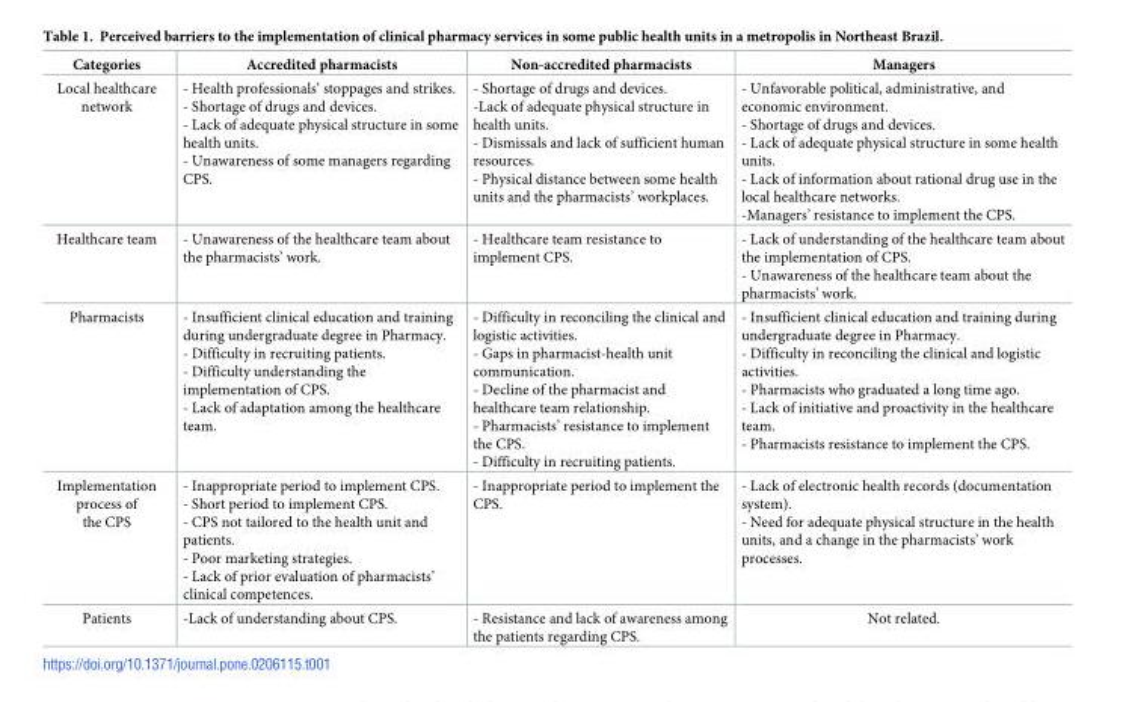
<table><thead><tr><td>Categories</td><td>Accredited pharmacists</td><td>Non-accredited pharmacists</td><td>Managers</td></tr></thead><tbody><tr><td>Local healthcare network</td><td>- Health professionals’ stoppages and strikes. - Shortage of drugs and devices. - Lack of adequate physical structure in some health units. - Unawareness of some managers regarding CPS.</td><td>- Shortage of drugs and devices. -Lack of adequate physical structure in health units. - Dismissals and lack of sufficient human resources. - Physical distance between some health units and the pharmacists’ workplaces.</td><td>- Unfavorable political, administrative, and economic environment. - Shortage of drugs and devices. - Lack of adequate physical structure in some health units. - Lack of information about rational drug use in the local healthcare networks. -Managers’ resistance to implement the CPS.</td></tr><tr><td>Healthcare team</td><td>- Unawareness of the healthcare team about the pharmacists’ work.</td><td>- Healthcare team resistance to implement CPS.</td><td>- Lack of understanding of the healthcare team about the implementation of CPS. - Unawareness of the healthcare team about the pharmacists’ work.</td></tr><tr><td>Pharmacists</td><td>- Insufficient clinical education and training during undergraduate degree in Pharmacy. - Difficulty in recruiting patients. - Difficulty understanding the implementation of CPS. - Lack of adaptation among the healthcare team.</td><td>- Difficulty in reconciling the clinical and logistic activities. - Gaps in pharmacist-health unit communication. - Decline of the pharmacist and healthcare team relationship. - Pharmacists’ resistance to implement the CPS. - Difficulty in recruiting patients.</td><td>- Insufficient clinical education and training during undergraduate degree in Pharmacy. - Difficulty in reconciling the clinical and logistic activities. - Pharmacists who graduated a long time ago. - Lack of initiative and proactivity in the healthcare team. - Pharmacists resistance to implement the CPS.</td></tr><tr><td>Implementation process of the CPS</td><td>- Inappropriate period to implement CPS. - Short period to implement CPS. - CPS not tailored to the health unit and patients. - Poor marketing strategies. - Lack of prior evaluation of pharmacists’ clinical competences.</td><td>- Inappropriate period to implement the CPS.</td><td>- Lack of electronic health records (documentation system). - Need for adequate physical structure in the health units, and a change in the pharmacists’ work processes.</td></tr><tr><td>Patients</td><td>-Lack of understanding about CPS.</td><td>- Resistance and lack of awareness among the patients regarding CPS.</td><td>Not related.</td></tr></tbody></table>